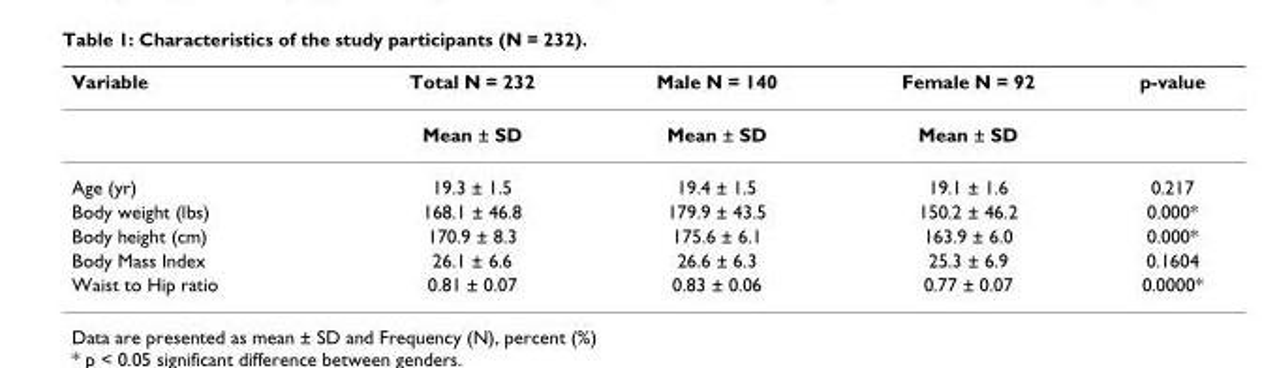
<table><thead><tr><td>Variable</td><td>Total N = 232</td><td>Male N = 140</td><td>Female N = 92</td><td>p-value</td></tr></thead><tbody><tr><td></td><td>Mean ± SD</td><td>Mean ± SD</td><td>Mean ± SD</td><td></td></tr><tr><td>Age (yr)</td><td>19.3 ± 1.5</td><td>19.4 ± 1.5</td><td>19.1 ± 1.6</td><td>0.217</td></tr><tr><td>Body weight (lbs)</td><td>168.1 ± 46.8</td><td>179.9 ± 43.5</td><td>150.2 ± 46.2</td><td>0.000*</td></tr><tr><td>Body height (cm)</td><td>170.9 ± 8.3</td><td>175.6 ± 6.1</td><td>163.9 ± 6.0</td><td>0.000*</td></tr><tr><td>Body Mass Index</td><td>26.1 ± 6.6</td><td>26.6 ± 6.3</td><td>25.3 ± 6.9</td><td>0.1604</td></tr><tr><td>Waist to Hip ratio</td><td>0.81 ± 0.07</td><td>0.83 ± 0.06</td><td>0.77 ± 0.07</td><td>0.0000*</td></tr></tbody></table>